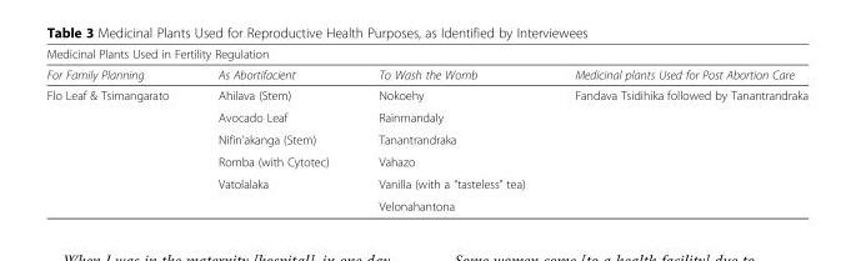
<table><thead><tr><td colspan="4">Medicinal Plants Used in Fertility Regulation</td></tr><tr><td>For Family Planning</td><td>As Abortifacient</td><td>To Wash the Womb</td><td>Medicinal plants Used for Post Abortion Care</td></tr></thead><tbody><tr><td rowspan="6">Flo Leaf &amp; Tsimangarato</td><td>Ahilava (Stem)</td><td>Nokoehy</td><td rowspan="6">Fandava Tsidihika followed by Tanantrandraka</td></tr><tr><td>Avocado Leaf</td><td>Rainmandaly</td></tr><tr><td>Nifin’akanga (Stem)</td><td>Tanantrandraka</td></tr><tr><td>Romba (with Cytotec)</td><td>Vahazo</td></tr><tr><td rowspan="2">Vatolalaka</td><td>Vanilla (with a “tasteless” tea)</td></tr><tr><td>Velonahantona</td></tr></tbody></table>